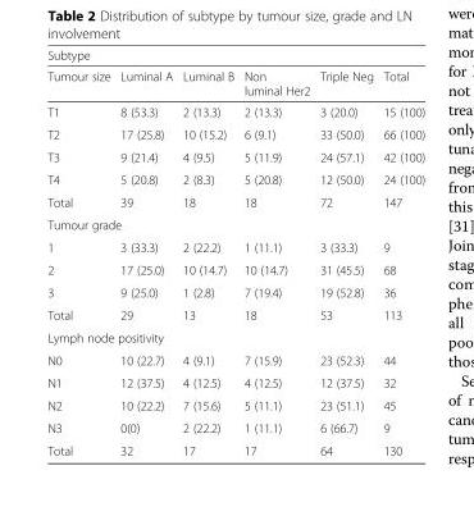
<table><thead><tr><td colspan="6">Subtype</td></tr><tr><td>Tumour size</td><td>Luminal A</td><td>Luminal B</td><td>Non luminal Her2</td><td>Triple Neg</td><td>Total</td></tr></thead><tbody><tr><td>T1</td><td>8 (53.3)</td><td>2 (13.3)</td><td>2 (13.3)</td><td>3 (20.0)</td><td>15 (100)</td></tr><tr><td>T2</td><td>17 (25.8)</td><td>10 (15.2)</td><td>6 (9.1)</td><td>33 (50.0)</td><td>66 (100)</td></tr><tr><td>T3</td><td>9 (21.4)</td><td>4 (9.5)</td><td>5 (11.9)</td><td>24 (57.1)</td><td>42 (100)</td></tr><tr><td>T4</td><td>5 (20.8)</td><td>2 (8.3)</td><td>5 (20.8)</td><td>12 (50.0)</td><td>24 (100)</td></tr><tr><td>Total</td><td>39</td><td>18</td><td>18</td><td>72</td><td>147</td></tr><tr><td colspan="6">Tumour grade</td></tr><tr><td>1</td><td>3 (33.3)</td><td>2 (22.2)</td><td>1 (11.1)</td><td>3 (33.3)</td><td>9</td></tr><tr><td>2</td><td>17 (25.0)</td><td>10 (14.7)</td><td>10 (14.7)</td><td>31 (45.5)</td><td>68</td></tr><tr><td>3</td><td>9 (25.0)</td><td>1 (2.8)</td><td>7 (19.4)</td><td>19 (52.8)</td><td>36</td></tr><tr><td>Total</td><td>29</td><td>13</td><td>18</td><td>53</td><td>113</td></tr><tr><td colspan="6">Lymph node positivity</td></tr><tr><td>N0</td><td>10 (22.7)</td><td>4 (9.1)</td><td>7 (15.9)</td><td>23 (52.3)</td><td>44</td></tr><tr><td>N1</td><td>12 (37.5)</td><td>4 (12.5)</td><td>4 (12.5)</td><td>12 (37.5)</td><td>32</td></tr><tr><td>N2</td><td>10 (22.2)</td><td>7 (15.6)</td><td>5 (11.1)</td><td>23 (51.1)</td><td>45</td></tr><tr><td>N3</td><td>0(0)</td><td>2 (22.2)</td><td>1 (11.1)</td><td>6 (66.7)</td><td>9</td></tr><tr><td>Total</td><td>32</td><td>17</td><td>17</td><td>64</td><td>130</td></tr></tbody></table>